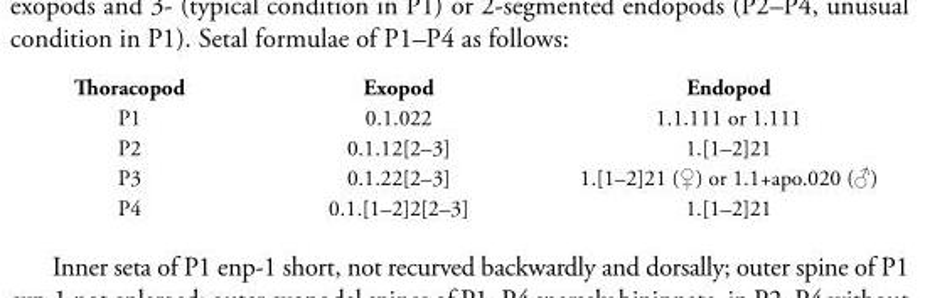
<table><tbody><tr><td>Thoracopod</td><td>Exopod</td><td>Endopod</td></tr><tr><td>P1</td><td>0.1.022</td><td>1.1.111 or 1.111</td></tr><tr><td>P2</td><td>0.1.12[2–3]</td><td>1.[1–2]21</td></tr><tr><td>P3</td><td>0.1.22[2–3]</td><td>1.[1–2]21 (♀) or 1.1+apo.020 (♂)</td></tr><tr><td>P4</td><td>0.1.[1–2]2[2–3]</td><td>1.[1–2]21</td></tr></tbody></table>